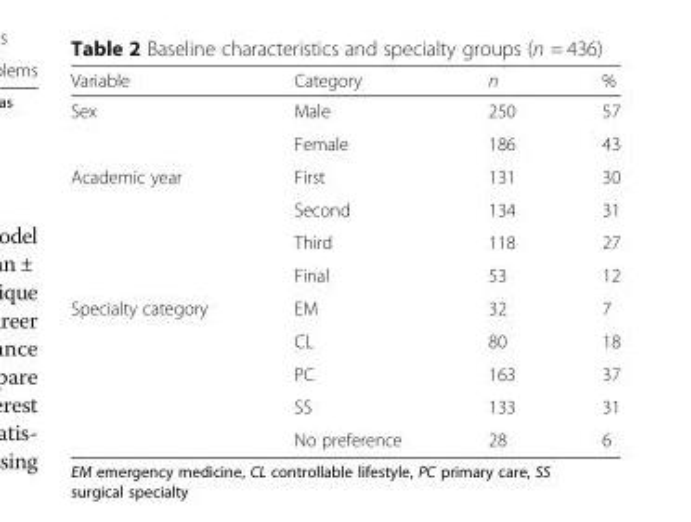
<table><thead><tr><td>Variable</td><td>Category</td><td>n</td><td>%</td></tr></thead><tbody><tr><td rowspan="2">Sex</td><td>Male</td><td>250</td><td>57</td></tr><tr><td>Female</td><td>186</td><td>43</td></tr><tr><td rowspan="4">Academic year</td><td>First</td><td>131</td><td>30</td></tr><tr><td>Second</td><td>134</td><td>31</td></tr><tr><td>Third</td><td>118</td><td>27</td></tr><tr><td>Final</td><td>53</td><td>12</td></tr><tr><td rowspan="5">Specialty category</td><td>EM</td><td>32</td><td>7</td></tr><tr><td>CL</td><td>80</td><td>18</td></tr><tr><td>PC</td><td>163</td><td>37</td></tr><tr><td>SS</td><td>133</td><td>31</td></tr><tr><td>No preference</td><td>28</td><td>6</td></tr></tbody></table>